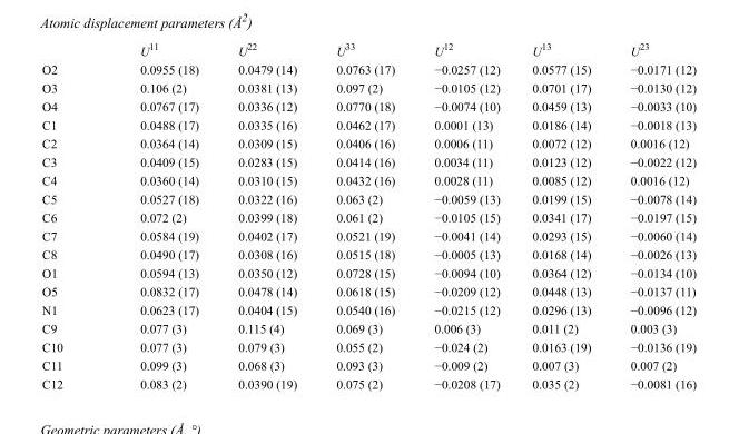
<table><thead><tr><td></td><td>U<sup>11</sup></td><td>U<sup>22</sup></td><td>U<sup>33</sup></td><td>U<sup>12</sup></td><td>U<sup>13</sup></td><td>U<sup>23</sup></td></tr></thead><tbody><tr><td>O2</td><td>0.0955 (18)</td><td>0.0479 (14)</td><td>0.0763 (17)</td><td>−0.0257 (12)</td><td>0.0577 (15)</td><td>−0.0171 (12)</td></tr><tr><td>O3</td><td>0.106 (2)</td><td>0.0381 (13)</td><td>0.097 (2)</td><td>−0.0105 (12)</td><td>0.0701 (17)</td><td>−0.0130 (12)</td></tr><tr><td>O4</td><td>0.0767 (17)</td><td>0.0336 (12)</td><td>0.0770 (18)</td><td>−0.0074 (10)</td><td>0.0459 (13)</td><td>−0.0033 (10)</td></tr><tr><td>C1</td><td>0.0488 (17)</td><td>0.0335 (16)</td><td>0.0462 (17)</td><td>0.0001 (13)</td><td>0.0186 (14)</td><td>−0.0018 (13)</td></tr><tr><td>C2</td><td>0.0364 (14)</td><td>0.0309 (15)</td><td>0.0406 (16)</td><td>0.0006 (11)</td><td>0.0072 (12)</td><td>0.0016 (12)</td></tr><tr><td>C3</td><td>0.0409 (15)</td><td>0.0283 (15)</td><td>0.0414 (16)</td><td>0.0034 (11)</td><td>0.0123 (12)</td><td>−0.0022 (12)</td></tr><tr><td>C4</td><td>0.0360 (14)</td><td>0.0310 (15)</td><td>0.0432 (16)</td><td>0.0028 (11)</td><td>0.0085 (12)</td><td>0.0016 (12)</td></tr><tr><td>C5</td><td>0.0527 (18)</td><td>0.0322 (16)</td><td>0.063 (2)</td><td>−0.0059 (13)</td><td>0.0199 (15)</td><td>−0.0078 (14)</td></tr><tr><td>C6</td><td>0.072 (2)</td><td>0.0399 (18)</td><td>0.061 (2)</td><td>−0.0105 (15)</td><td>0.0341 (17)</td><td>−0.0197 (15)</td></tr><tr><td>C7</td><td>0.0584 (19)</td><td>0.0402 (17)</td><td>0.0521 (19)</td><td>−0.0041 (14)</td><td>0.0293 (15)</td><td>−0.0060 (14)</td></tr><tr><td>C8</td><td>0.0490 (17)</td><td>0.0308 (16)</td><td>0.0515 (18)</td><td>−0.0005 (13)</td><td>0.0168 (14)</td><td>−0.0026 (13)</td></tr><tr><td>O1</td><td>0.0594 (13)</td><td>0.0350 (12)</td><td>0.0728 (15)</td><td>−0.0094 (10)</td><td>0.0364 (12)</td><td>−0.0134 (10)</td></tr><tr><td>O5</td><td>0.0832 (17)</td><td>0.0478 (14)</td><td>0.0618 (15)</td><td>−0.0209 (12)</td><td>0.0448 (13)</td><td>−0.0137 (11)</td></tr><tr><td>N1</td><td>0.0623 (17)</td><td>0.0404 (15)</td><td>0.0540 (16)</td><td>−0.0215 (12)</td><td>0.0296 (13)</td><td>−0.0096 (12)</td></tr><tr><td>C9</td><td>0.077 (3)</td><td>0.115 (4)</td><td>0.069 (3)</td><td>0.006 (3)</td><td>0.011 (2)</td><td>0.003 (3)</td></tr><tr><td>C10</td><td>0.077 (3)</td><td>0.079 (3)</td><td>0.055 (2)</td><td>−0.024 (2)</td><td>0.0163 (19)</td><td>−0.0136 (19)</td></tr><tr><td>C11</td><td>0.099 (3)</td><td>0.068 (3)</td><td>0.093 (3)</td><td>−0.009 (2)</td><td>0.007 (3)</td><td>0.007 (2)</td></tr><tr><td>C12</td><td>0.083 (2)</td><td>0.0390 (19)</td><td>0.075 (2)</td><td>−0.0208 (17)</td><td>0.035 (2)</td><td>−0.0081 (16)</td></tr></tbody></table>